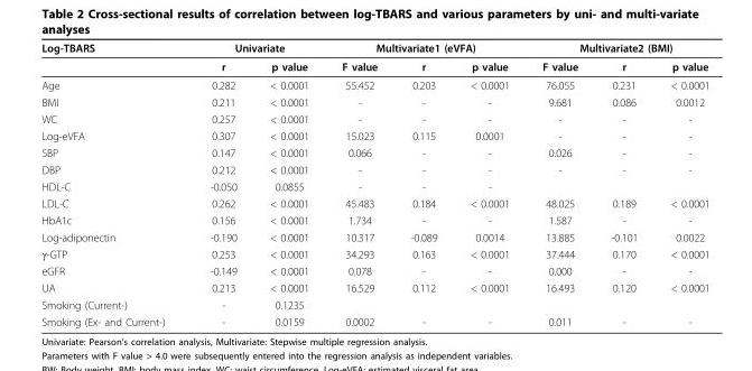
<table><thead><tr><td rowspan="2">Log-TBARS</td><td colspan="2">Univariate</td><td colspan="3">Multivariate1 (eVFA)</td><td colspan="3">Multivariate2 (BMI)</td></tr><tr><td>r</td><td>p value</td><td>F value</td><td>r</td><td>p value</td><td>F value</td><td>r</td><td>p value</td></tr></thead><tbody><tr><td>Age</td><td>0.282</td><td>&lt; 0.0001</td><td>55.452</td><td>0.203</td><td>&lt; 0.0001</td><td>76.055</td><td>0.231</td><td>&lt; 0.0001</td></tr><tr><td>BMI</td><td>0.211</td><td>&lt; 0.0001</td><td>-</td><td>-</td><td>-</td><td>9.681</td><td>0.086</td><td>0.0012</td></tr><tr><td>WC</td><td>0.257</td><td>&lt; 0.0001</td><td>-</td><td>-</td><td>-</td><td>-</td><td>-</td><td>-</td></tr><tr><td>Log-eVFA</td><td>0.307</td><td>&lt; 0.0001</td><td>15.023</td><td>0.115</td><td>0.0001</td><td>-</td><td>-</td><td>-</td></tr><tr><td>SBP</td><td>0.147</td><td>&lt; 0.0001</td><td>0.066</td><td>-</td><td>-</td><td>0.026</td><td>-</td><td>-</td></tr><tr><td>DBP</td><td>0.212</td><td>&lt; 0.0001</td><td>-</td><td>-</td><td>-</td><td>-</td><td>-</td><td>-</td></tr><tr><td>HDL-C</td><td>-0.050</td><td>0.0855</td><td>-</td><td>-</td><td>-</td><td></td><td></td><td></td></tr><tr><td>LDL-C</td><td>0.262</td><td>&lt; 0.0001</td><td>45.483</td><td>0.184</td><td>&lt; 0.0001</td><td>48.025</td><td>0.189</td><td>&lt; 0.0001</td></tr><tr><td>HbA1c</td><td>0.156</td><td>&lt; 0.0001</td><td>1.734</td><td>-</td><td>-</td><td>1.587</td><td>-</td><td>-</td></tr><tr><td>Log-adiponectin</td><td>-0.190</td><td>&lt; 0.0001</td><td>10.317</td><td>-0.089</td><td>0.0014</td><td>13.885</td><td>-0.101</td><td>0.0022</td></tr><tr><td>γ-GTP</td><td>0.253</td><td>&lt; 0.0001</td><td>34.293</td><td>0.163</td><td>&lt; 0.0001</td><td>37.444</td><td>0.170</td><td>&lt; 0.0001</td></tr><tr><td>eGFR</td><td>-0.149</td><td>&lt; 0.0001</td><td>0.078</td><td>-</td><td>-</td><td>0.000</td><td>-</td><td>-</td></tr><tr><td>UA</td><td>0.213</td><td>&lt; 0.0001</td><td>16.529</td><td>0.112</td><td>&lt; 0.0001</td><td>16.493</td><td>0.120</td><td>&lt; 0.0001</td></tr><tr><td>Smoking (Current-)</td><td>-</td><td>0.1235</td><td></td><td></td><td></td><td></td><td></td><td></td></tr><tr><td>Smoking (Ex- and Current-)</td><td>-</td><td>0.0159</td><td>0.0002</td><td>-</td><td>-</td><td>0.011</td><td>-</td><td>-</td></tr></tbody></table>